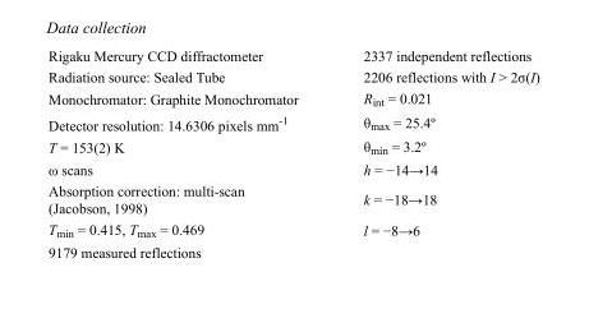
<table><tbody><tr><td>Rigaku Mercury CCD diffractometer</td><td>2337 independent reflections</td></tr><tr><td>Radiation source: Sealed Tube</td><td>2206 reflections with I &gt; 2σ(I)</td></tr><tr><td>Monochromator: Graphite Monochromator</td><td>R<sub>int</sub> = 0.021</td></tr><tr><td>Detector resolution: 14.6306 pixels mm<sup>-1</sup></td><td>θ<sub>max</sub> = 25.4º</td></tr><tr><td>T = 153(2) K</td><td>θ<sub>min</sub> = 3.2º</td></tr><tr><td>ω scans</td><td>h = −14→14</td></tr><tr><td>Absorption correction: multi-scan (Jacobson, 1998)</td><td>k = −18→18</td></tr><tr><td>T<sub>min</sub> = 0.415, T<sub>max</sub> = 0.469</td><td>l = −8→6</td></tr><tr><td>9179 measured reflections</td><td></td></tr></tbody></table>